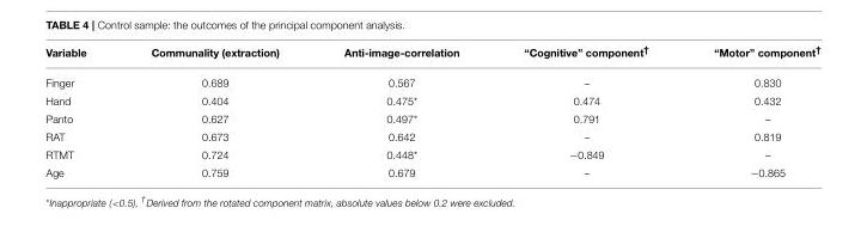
<table><thead><tr><td>Variable</td><td>Communality (extraction)</td><td>Anti-image-correlation</td><td>“Cognitive” component<sup>†</sup></td><td>“Motor” component<sup>†</sup></td></tr></thead><tbody><tr><td>Finger</td><td>0.689</td><td>0.567</td><td>–</td><td>0.830</td></tr><tr><td>Hand</td><td>0.404</td><td>0.475*</td><td>0.474</td><td>0.432</td></tr><tr><td>Panto</td><td>0.627</td><td>0.497*</td><td>0.791</td><td>–</td></tr><tr><td>RAT</td><td>0.673</td><td>0.642</td><td>–</td><td>0.819</td></tr><tr><td>RTMT</td><td>0.724</td><td>0.448*</td><td>−0.849</td><td>–</td></tr><tr><td>Age</td><td>0.759</td><td>0.679</td><td>–</td><td>−0.865</td></tr></tbody></table>